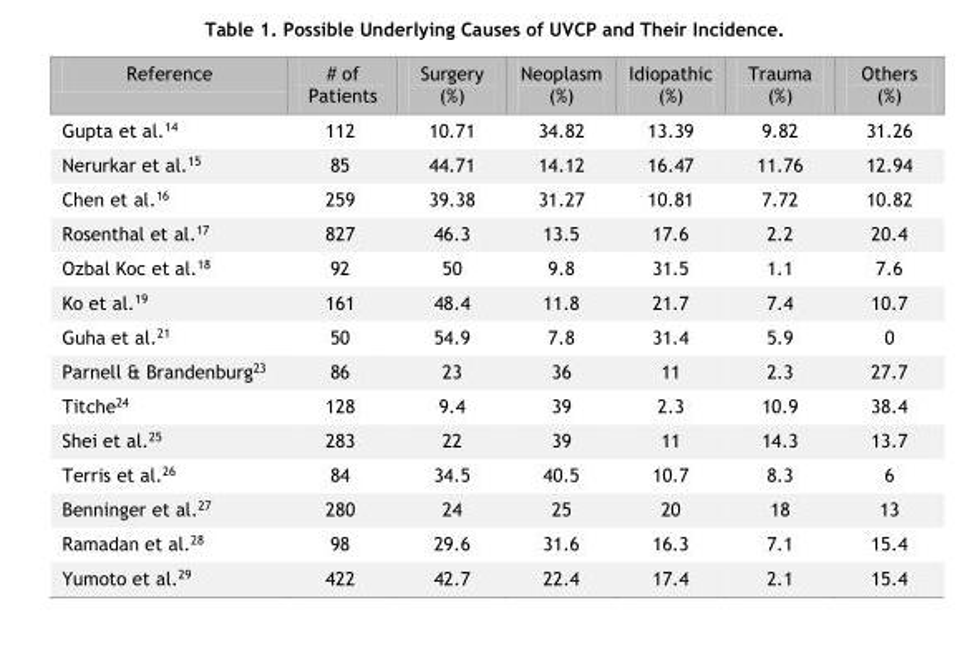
<table><thead><tr><td>Reference</td><td># of Patients</td><td>Surgery (%)</td><td>Neoplasm (%)</td><td>Idiopathic (%)</td><td>Trauma (%)</td><td>Others (%)</td></tr></thead><tbody><tr><td>Gupta et al.<sup>14</sup></td><td>112</td><td>10.71</td><td>34.82</td><td>13.39</td><td>9.82</td><td>31.26</td></tr><tr><td>Nerurkar et al.<sup>15</sup></td><td>85</td><td>44.71</td><td>14.12</td><td>16.47</td><td>11.76</td><td>12.94</td></tr><tr><td>Chen et al.<sup>16</sup></td><td>259</td><td>39.38</td><td>31.27</td><td>10.81</td><td>7.72</td><td>10.82</td></tr><tr><td>Rosenthal et al.<sup>17</sup></td><td>827</td><td>46.3</td><td>13.5</td><td>17.6</td><td>2.2</td><td>20.4</td></tr><tr><td>Ozbal Koc et al.<sup>18</sup></td><td>92</td><td>50</td><td>9.8</td><td>31.5</td><td>1.1</td><td>7.6</td></tr><tr><td>Ko et al.<sup>19</sup></td><td>161</td><td>48.4</td><td>11.8</td><td>21.7</td><td>7.4</td><td>10.7</td></tr><tr><td>Guha et al.<sup>21</sup></td><td>50</td><td>54.9</td><td>7.8</td><td>31.4</td><td>5.9</td><td>0</td></tr><tr><td>Parnell &amp; Brandenburg<sup>23</sup></td><td>86</td><td>23</td><td>36</td><td>11</td><td>2.3</td><td>27.7</td></tr><tr><td>Titche<sup>24</sup></td><td>128</td><td>9.4</td><td>39</td><td>2.3</td><td>10.9</td><td>38.4</td></tr><tr><td>Shei et al.<sup>25</sup></td><td>283</td><td>22</td><td>39</td><td>11</td><td>14.3</td><td>13.7</td></tr><tr><td>Terris et al.<sup>26</sup></td><td>84</td><td>34.5</td><td>40.5</td><td>10.7</td><td>8.3</td><td>6</td></tr><tr><td>Benninger et al.<sup>27</sup></td><td>280</td><td>24</td><td>25</td><td>20</td><td>18</td><td>13</td></tr><tr><td>Ramadan et al.<sup>28</sup></td><td>98</td><td>29.6</td><td>31.6</td><td>16.3</td><td>7.1</td><td>15.4</td></tr><tr><td>Yumoto et al.<sup>29</sup></td><td>422</td><td>42.7</td><td>22.4</td><td>17.4</td><td>2.1</td><td>15.4</td></tr></tbody></table>